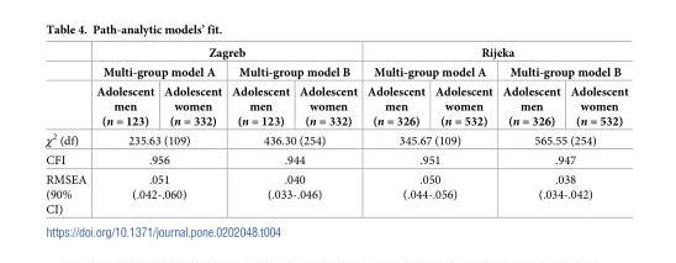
<table><thead><tr><td rowspan="3"></td><td colspan="4">Zagreb</td><td colspan="4">Rijeka</td></tr><tr><td colspan="2">Multi-group model A</td><td colspan="2">Multi-group model B</td><td colspan="2">Multi-group model A</td><td colspan="2">Multi-group model B</td></tr><tr><td>Adolescent men (n = 123)</td><td>Adolescent women (n = 332)</td><td>Adolescent men (n = 123)</td><td>Adolescent women (n = 332)</td><td>Adolescent men (n = 326)</td><td>Adolescent women (n = 532)</td><td>Adolescent men (n = 326)</td><td>Adolescent women (n = 532)</td></tr></thead><tbody><tr><td>χ<sup>2</sup> (df)</td><td colspan="2">235.63 (109)</td><td colspan="2">436.30 (254)</td><td colspan="2">345.67 (109)</td><td colspan="2">565.55 (254)</td></tr><tr><td>CFI</td><td colspan="2">.956</td><td colspan="2">.944</td><td colspan="2">.951</td><td colspan="2">.947</td></tr><tr><td>RMSEA (90% CI)</td><td colspan="2">.051 (.042-.060)</td><td colspan="2">.040 (.033-.046)</td><td colspan="2">.050 (.044-.056)</td><td colspan="2">.038 (.034-.042)</td></tr></tbody></table>